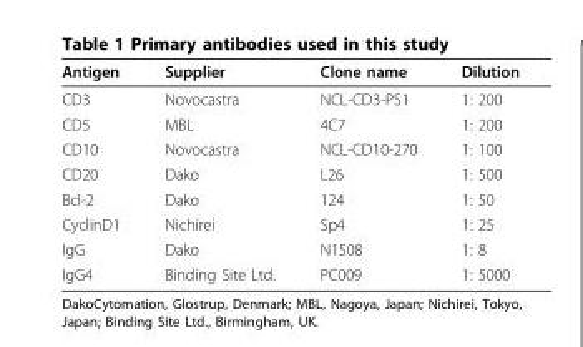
<table><thead><tr><td>Antigen</td><td>Supplier</td><td>Clone name</td><td>Dilution</td></tr></thead><tbody><tr><td>CD3</td><td>Novocastra</td><td>NCL-CD3-PS1</td><td>1: 200</td></tr><tr><td>CD5</td><td>MBL</td><td>4C7</td><td>1: 200</td></tr><tr><td>CD10</td><td>Novocastra</td><td>NCL-CD10-270</td><td>1: 100</td></tr><tr><td>CD20</td><td>Dako</td><td>L26</td><td>1: 500</td></tr><tr><td>Bcl-2</td><td>Dako</td><td>124</td><td>1: 50</td></tr><tr><td>CyclinD1</td><td>Nichirei</td><td>Sp4</td><td>1: 25</td></tr><tr><td>IgG</td><td>Dako</td><td>N1508</td><td>1: 8</td></tr><tr><td>IgG4</td><td>Binding Site Ltd.</td><td>PC009</td><td>1: 5000</td></tr></tbody></table>